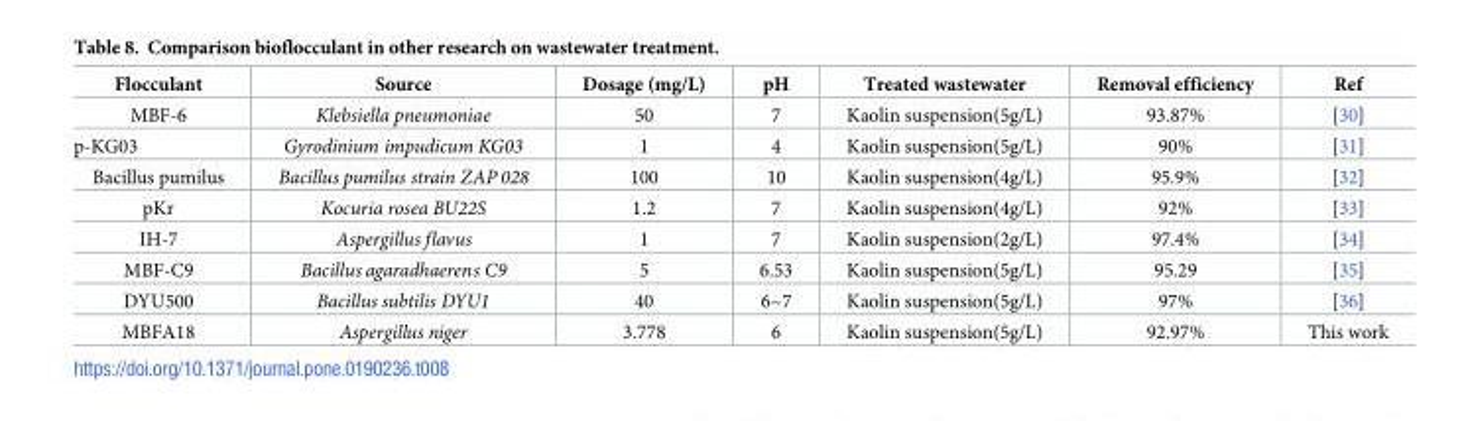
<table><thead><tr><td>Flocculant</td><td>Source</td><td>Dosage (mg/L)</td><td>pH</td><td>Treated wastewater</td><td>Removal efficiency</td><td>Ref</td></tr></thead><tbody><tr><td>MBF-6</td><td>Klebsiella pneumoniae</td><td>50</td><td>7</td><td>Kaolin suspension(5g/L)</td><td>93.87%</td><td>[30]</td></tr><tr><td>p-KG03</td><td>Gyrodinium impudicum KG03</td><td>1</td><td>4</td><td>Kaolin suspension(5g/L)</td><td>90%</td><td>[31]</td></tr><tr><td>Bacillus pumilus</td><td>Bacillus pumilus strain ZAP 028</td><td>100</td><td>10</td><td>Kaolin suspension(4g/L)</td><td>95.9%</td><td>[32]</td></tr><tr><td>pKr</td><td>Kocuria rosea BU22S</td><td>1.2</td><td>7</td><td>Kaolin suspension(4g/L)</td><td>92%</td><td>[33]</td></tr><tr><td>IH-7</td><td>Aspergillus flavus</td><td>1</td><td>7</td><td>Kaolin suspension(2g/L)</td><td>97.4%</td><td>[34]</td></tr><tr><td>MBF-C9</td><td>Bacillus agaradhaerens C9</td><td>5</td><td>6.53</td><td>Kaolin suspension(5g/L)</td><td>95.29</td><td>[35]</td></tr><tr><td>DYU500</td><td>Bacillus subtilis DYU1</td><td>40</td><td>6~7</td><td>Kaolin suspension(5g/L)</td><td>97%</td><td>[36]</td></tr><tr><td>MBFA18</td><td>Aspergillus niger</td><td>3.778</td><td>6</td><td>Kaolin suspension(5g/L)</td><td>92.97%</td><td>This work</td></tr></tbody></table>